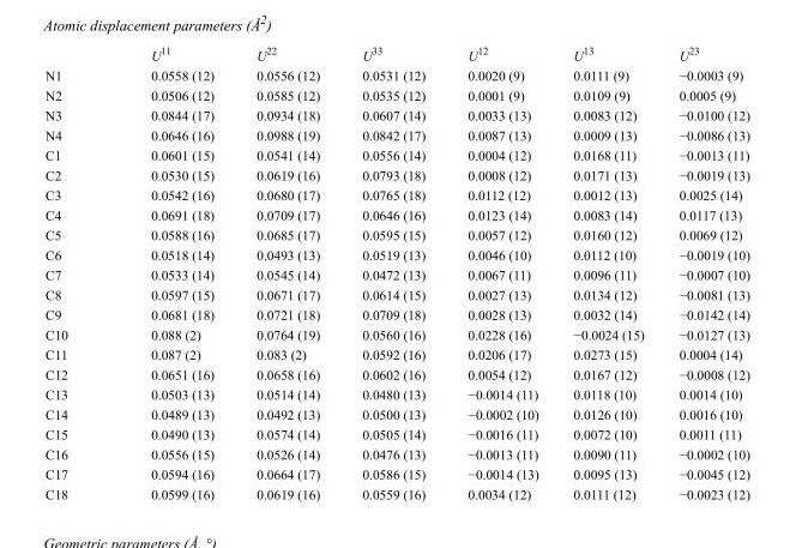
<table><thead><tr><td></td><td>U<sup>11</sup></td><td>U<sup>22</sup></td><td>U<sup>33</sup></td><td>U<sup>12</sup></td><td>U<sup>13</sup></td><td>U<sup>23</sup></td></tr></thead><tbody><tr><td>N1</td><td>0.0558 (12)</td><td>0.0556 (12)</td><td>0.0531 (12)</td><td>0.0020 (9)</td><td>0.0111 (9)</td><td>−0.0003 (9)</td></tr><tr><td>N2</td><td>0.0506 (12)</td><td>0.0585 (12)</td><td>0.0535 (12)</td><td>0.0001 (9)</td><td>0.0109 (9)</td><td>0.0005 (9)</td></tr><tr><td>N3</td><td>0.0844 (17)</td><td>0.0934 (18)</td><td>0.0607 (14)</td><td>0.0033 (13)</td><td>0.0083 (12)</td><td>−0.0100 (12)</td></tr><tr><td>N4</td><td>0.0646 (16)</td><td>0.0988 (19)</td><td>0.0842 (17)</td><td>0.0087 (13)</td><td>0.0009 (13)</td><td>−0.0086 (13)</td></tr><tr><td>C1</td><td>0.0601 (15)</td><td>0.0541 (14)</td><td>0.0556 (14)</td><td>0.0004 (12)</td><td>0.0168 (11)</td><td>−0.0013 (11)</td></tr><tr><td>C2</td><td>0.0530 (15)</td><td>0.0619 (16)</td><td>0.0793 (18)</td><td>0.0008 (12)</td><td>0.0171 (13)</td><td>−0.0019 (13)</td></tr><tr><td>C3</td><td>0.0542 (16)</td><td>0.0680 (17)</td><td>0.0765 (18)</td><td>0.0112 (12)</td><td>0.0012 (13)</td><td>0.0025 (14)</td></tr><tr><td>C4</td><td>0.0691 (18)</td><td>0.0709 (17)</td><td>0.0646 (16)</td><td>0.0123 (14)</td><td>0.0083 (14)</td><td>0.0117 (13)</td></tr><tr><td>C5</td><td>0.0588 (16)</td><td>0.0685 (17)</td><td>0.0595 (15)</td><td>0.0057 (12)</td><td>0.0160 (12)</td><td>0.0069 (12)</td></tr><tr><td>C6</td><td>0.0518 (14)</td><td>0.0493 (13)</td><td>0.0519 (13)</td><td>0.0046 (10)</td><td>0.0112 (10)</td><td>−0.0019 (10)</td></tr><tr><td>C7</td><td>0.0533 (14)</td><td>0.0545 (14)</td><td>0.0472 (13)</td><td>0.0067 (11)</td><td>0.0096 (11)</td><td>−0.0007 (10)</td></tr><tr><td>C8</td><td>0.0597 (15)</td><td>0.0671 (17)</td><td>0.0614 (15)</td><td>0.0027 (13)</td><td>0.0134 (12)</td><td>−0.0081 (13)</td></tr><tr><td>C9</td><td>0.0681 (18)</td><td>0.0721 (18)</td><td>0.0709 (18)</td><td>0.0028 (13)</td><td>0.0032 (14)</td><td>−0.0142 (14)</td></tr><tr><td>C10</td><td>0.088 (2)</td><td>0.0764 (19)</td><td>0.0560 (16)</td><td>0.0228 (16)</td><td>−0.0024 (15)</td><td>−0.0127 (13)</td></tr><tr><td>C11</td><td>0.087 (2)</td><td>0.083 (2)</td><td>0.0592 (16)</td><td>0.0206 (17)</td><td>0.0273 (15)</td><td>0.0004 (14)</td></tr><tr><td>C12</td><td>0.0651 (16)</td><td>0.0658 (16)</td><td>0.0602 (16)</td><td>0.0054 (12)</td><td>0.0167 (12)</td><td>−0.0008 (12)</td></tr><tr><td>C13</td><td>0.0503 (13)</td><td>0.0514 (14)</td><td>0.0480 (13)</td><td>−0.0014 (11)</td><td>0.0118 (10)</td><td>0.0014 (10)</td></tr><tr><td>C14</td><td>0.0489 (13)</td><td>0.0492 (13)</td><td>0.0500 (13)</td><td>−0.0002 (10)</td><td>0.0126 (10)</td><td>0.0016 (10)</td></tr><tr><td>C15</td><td>0.0490 (13)</td><td>0.0574 (14)</td><td>0.0505 (14)</td><td>−0.0016 (11)</td><td>0.0072 (10)</td><td>0.0011 (11)</td></tr><tr><td>C16</td><td>0.0556 (15)</td><td>0.0526 (14)</td><td>0.0476 (13)</td><td>−0.0013 (11)</td><td>0.0090 (11)</td><td>−0.0002 (10)</td></tr><tr><td>C17</td><td>0.0594 (16)</td><td>0.0664 (17)</td><td>0.0586 (15)</td><td>−0.0014 (13)</td><td>0.0095 (13)</td><td>−0.0045 (12)</td></tr><tr><td>C18</td><td>0.0599 (16)</td><td>0.0619 (16)</td><td>0.0559 (16)</td><td>0.0034 (12)</td><td>0.0111 (12)</td><td>−0.0023 (12)</td></tr></tbody></table>